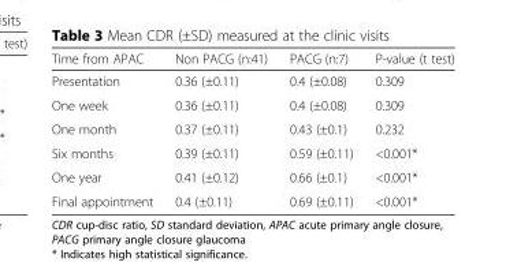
<table><thead><tr><td>Time from APAC</td><td>Non PACG (n:41)</td><td>PACG (n:7)</td><td>P-value (t test)</td></tr></thead><tbody><tr><td>Presentation</td><td>0.36 (±0.11)</td><td>0.4 (±0.08)</td><td>0.309</td></tr><tr><td>One week</td><td>0.36 (±0.11)</td><td>0.4 (±0.08)</td><td>0.309</td></tr><tr><td>One month</td><td>0.37 (±0.11)</td><td>0.43 (±0.1)</td><td>0.232</td></tr><tr><td>Six months</td><td>0.39 (±0.11)</td><td>0.59 (±0.11)</td><td>&lt;0.001*</td></tr><tr><td>One year</td><td>0.41 (±0.12)</td><td>0.66 (±0.1)</td><td>&lt;0.001*</td></tr><tr><td>Final appointment</td><td>0.4 (±0.11)</td><td>0.69 (±0.11)</td><td>&lt;0.001*</td></tr></tbody></table>